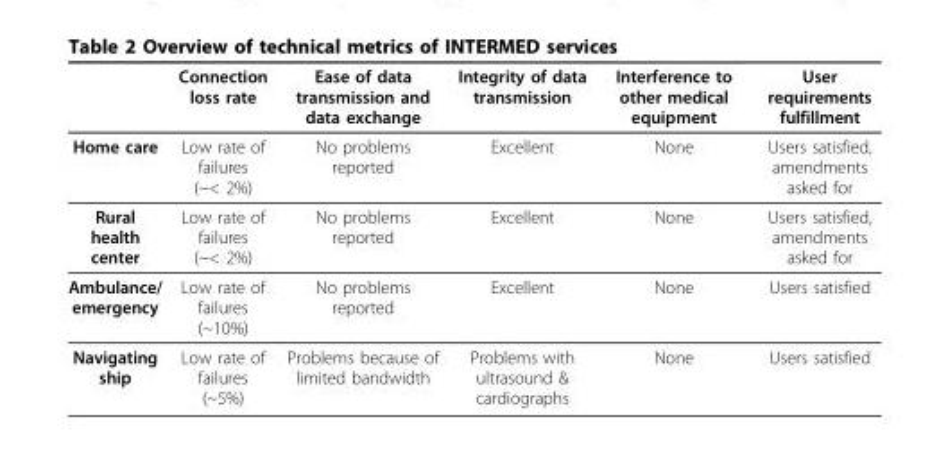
<table><thead><tr><td></td><td>Connection loss rate</td><td>Ease of data transmission and data exchange</td><td>Integrity of data transmission</td><td>Interference to other medical equipment</td><td>User requirements fulfillment</td></tr></thead><tbody><tr><td>Home care</td><td>Low rate of failures (~&lt; 2%)</td><td>No problems reported</td><td>Excellent</td><td>None</td><td>Users satisfied, amendments asked for</td></tr><tr><td>Rural health center</td><td>Low rate of failures (~&lt; 2%)</td><td>No problems reported</td><td>Excellent</td><td>None</td><td>Users satisfied, amendments asked for</td></tr><tr><td>Ambulance/ emergency</td><td>Low rate of failures (~10%)</td><td>No problems reported</td><td>Excellent</td><td>None</td><td>Users satisfied</td></tr><tr><td>Navigating ship</td><td>Low rate of failures (~5%)</td><td>Problems because of limited bandwidth</td><td>Problems with ultrasound &amp; cardiographs</td><td>None</td><td>Users satisfied</td></tr></tbody></table>